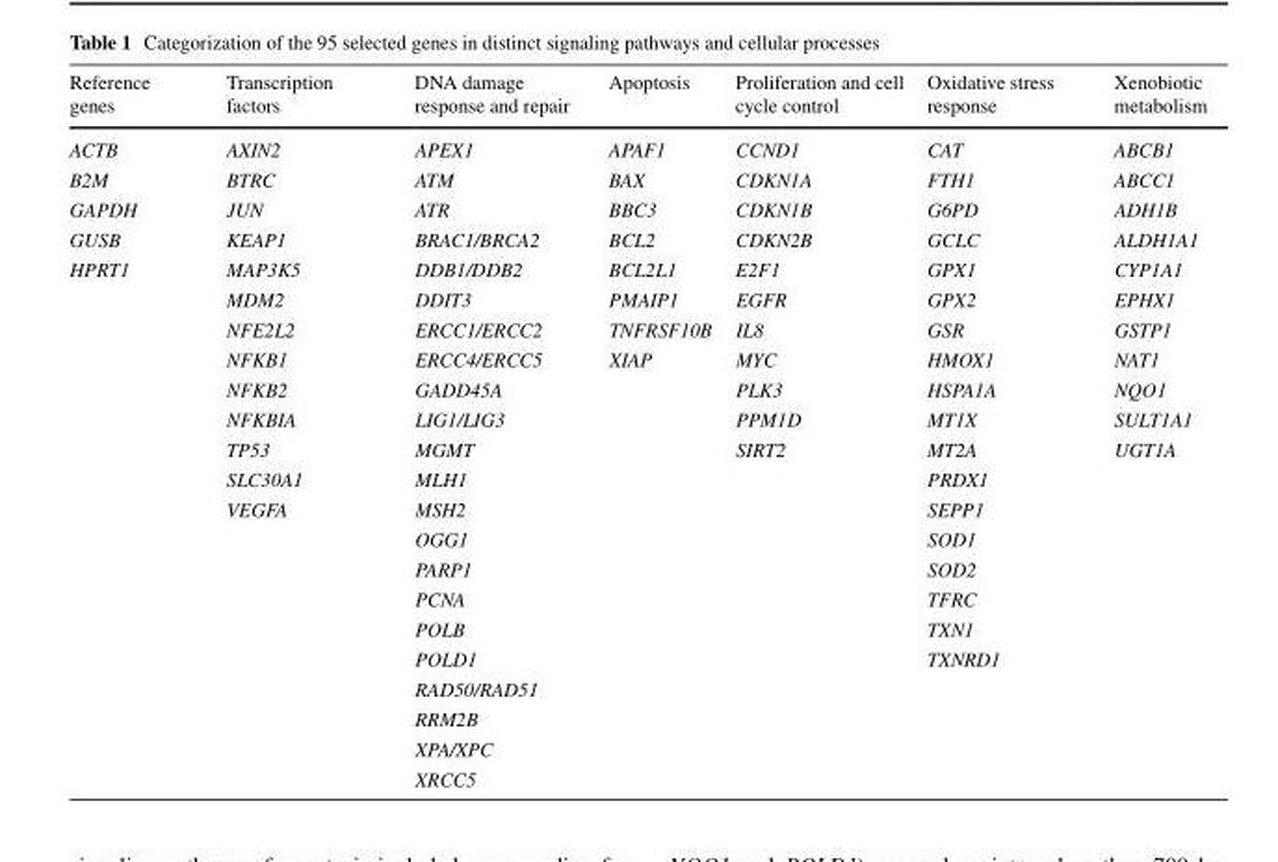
<table><thead><tr><td>Reference genes</td><td>Transcription factors</td><td>DNA damage response and repair</td><td>Apoptosis</td><td>Proliferation and cell cycle control</td><td>Oxidative stress response</td><td>Xenobiotic metabolism</td></tr></thead><tbody><tr><td>ACTB</td><td>AXIN2</td><td>APEX1</td><td>APAF1</td><td>CCND1</td><td>CAT</td><td>ABCB1</td></tr><tr><td>B2M</td><td>BTRC</td><td>ATM</td><td>BAX</td><td>CDKN1A</td><td>FTH1</td><td>ABCC1</td></tr><tr><td>GAPDH</td><td>JUN</td><td>ATR</td><td>BBC3</td><td>CDKN1B</td><td>G6PD</td><td>ADH1B</td></tr><tr><td>GUSB</td><td>KEAP1</td><td>BRAC1/BRCA2</td><td>BCL2</td><td>CDKN2B</td><td>GCLC</td><td>ALDH1A1</td></tr><tr><td rowspan="18">HPRT1</td><td>MAP3K5</td><td>DDB1/DDB2</td><td>BCL2L1</td><td>E2F1</td><td>GPX1</td><td>CYP1A1</td></tr><tr><td>MDM2</td><td>DDIT3</td><td>PMAIP1</td><td>EGFR</td><td>GPX2</td><td>EPHX1</td></tr><tr><td>NFE2L2</td><td>ERCC1/ERCC2</td><td>TNFRSF10B</td><td>IL8</td><td>GSR</td><td>GSTP1</td></tr><tr><td>NFKB1</td><td>ERCC4/ERCC5</td><td>XIAP</td><td>MYC</td><td>HMOX1</td><td>NAT1</td></tr><tr><td>NFKB2</td><td>GADD45A</td><td></td><td>PLK3</td><td>HSPA1A</td><td>NQO1</td></tr><tr><td>NFKBIA</td><td>LIG1/LIG3</td><td></td><td>PPM1D</td><td>MT1X</td><td>SULT1A1</td></tr><tr><td>TP53</td><td>MGMT</td><td></td><td>SIRT2</td><td>MT2A</td><td>UGT1A</td></tr><tr><td>SLC30A1</td><td>MLH1</td><td></td><td></td><td>PRDX1</td><td></td></tr><tr><td>VEGFA</td><td>MSH2</td><td></td><td></td><td>SEPP1</td><td></td></tr><tr><td></td><td>OGG1</td><td></td><td></td><td>SOD1</td><td></td></tr><tr><td></td><td>PARP1</td><td></td><td></td><td>SOD2</td><td></td></tr><tr><td></td><td>PCNA</td><td></td><td></td><td>TFRC</td><td></td></tr><tr><td></td><td>POLB</td><td></td><td></td><td>TXN1</td><td></td></tr><tr><td></td><td>POLD1</td><td></td><td></td><td>TXNRD1</td><td></td></tr><tr><td></td><td>RAD50/RAD51</td><td></td><td></td><td></td><td></td></tr><tr><td></td><td>RRM2B</td><td></td><td></td><td></td><td></td></tr><tr><td></td><td>XPA/XPC</td><td></td><td></td><td></td><td></td></tr><tr><td></td><td>XRCC5</td><td></td><td></td><td></td><td></td></tr></tbody></table>